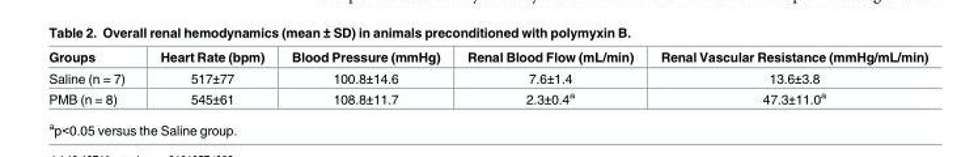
<table><thead><tr><td>Groups</td><td>Heart Rate (bpm)</td><td>Blood Pressure (mmHg)</td><td>Renal Blood Flow (mL/min)</td><td>Renal Vascular Resistance (mmHg/mL/min)</td></tr></thead><tbody><tr><td>Saline (n = 7)</td><td>517±77</td><td>100.8±14.6</td><td>7.6±1.4</td><td>13.6±3.8</td></tr><tr><td>PMB (n = 8)</td><td>545±61</td><td>108.8±11.7</td><td>2.3±0.4<sup>a</sup></td><td>47.3±11.0<sup>a</sup></td></tr></tbody></table>